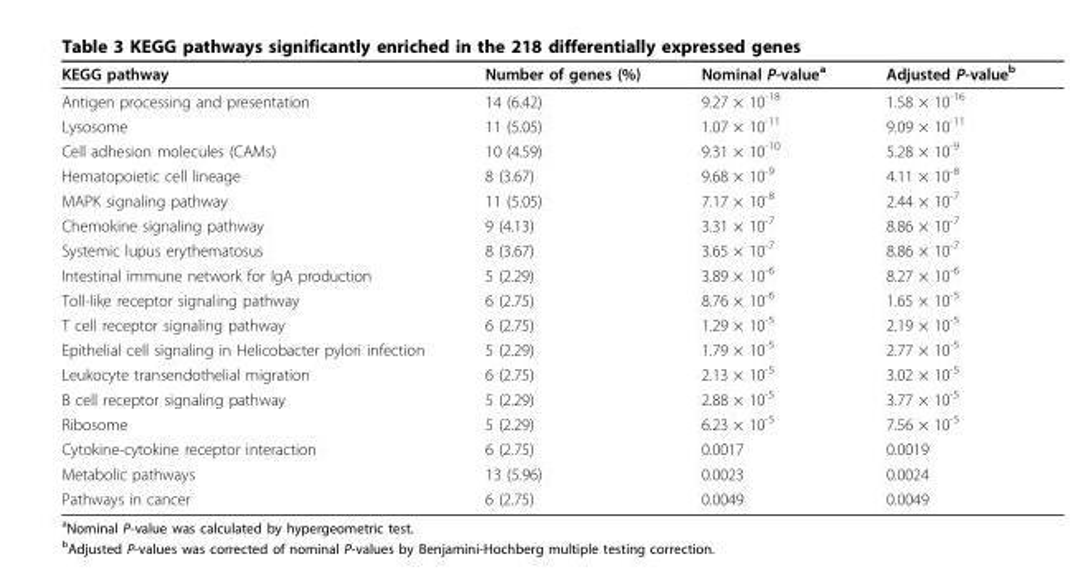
<table><thead><tr><td>KEGG pathway</td><td>Number of genes (%)</td><td>Nominal P-value<sup>a</sup></td><td>Adjusted P-value<sup>b</sup></td></tr></thead><tbody><tr><td>Antigen processing and presentation</td><td>14 (6.42)</td><td>9.27 × 10<sup>-18</sup></td><td>1.58 × 10<sup>-16</sup></td></tr><tr><td>Lysosome</td><td>11 (5.05)</td><td>1.07 × 10<sup>-11</sup></td><td>9.09 × 10<sup>-11</sup></td></tr><tr><td>Cell adhesion molecules (CAMs)</td><td>10 (4.59)</td><td>9.31 × 10<sup>-10</sup></td><td>5.28 × 10<sup>-9</sup></td></tr><tr><td>Hematopoietic cell lineage</td><td>8 (3.67)</td><td>9.68 × 10<sup>-9</sup></td><td>4.11 × 10<sup>-8</sup></td></tr><tr><td>MAPK signaling pathway</td><td>11 (5.05)</td><td>7.17 × 10<sup>-8</sup></td><td>2.44 × 10<sup>-7</sup></td></tr><tr><td>Chemokine signaling pathway</td><td>9 (4.13)</td><td>3.31 × 10<sup>-7</sup></td><td>8.86 × 10<sup>-7</sup></td></tr><tr><td>Systemic lupus erythematosus</td><td>8 (3.67)</td><td>3.65 × 10<sup>-7</sup></td><td>8.86 × 10<sup>-7</sup></td></tr><tr><td>Intestinal immune network for IgA production</td><td>5 (2.29)</td><td>3.89 × 10<sup>-6</sup></td><td>8.27 × 10<sup>-6</sup></td></tr><tr><td>Toll-like receptor signaling pathway</td><td>6 (2.75)</td><td>8.76 × 10<sup>-6</sup></td><td>1.65 × 10<sup>-5</sup></td></tr><tr><td>T cell receptor signaling pathway</td><td>6 (2.75)</td><td>1.29 × 10<sup>-5</sup></td><td>2.19 × 10<sup>-5</sup></td></tr><tr><td>Epithelial cell signaling in Helicobacter pylori infection</td><td>5 (2.29)</td><td>1.79 × 10<sup>-5</sup></td><td>2.77 × 10<sup>-5</sup></td></tr><tr><td>Leukocyte transendothelial migration</td><td>6 (2.75)</td><td>2.13 × 10<sup>-5</sup></td><td>3.02 × 10<sup>-5</sup></td></tr><tr><td>B cell receptor signaling pathway</td><td>5 (2.29)</td><td>2.88 × 10<sup>-5</sup></td><td>3.77 × 10<sup>-5</sup></td></tr><tr><td>Ribosome</td><td>5 (2.29)</td><td>6.23 × 10<sup>-5</sup></td><td>7.56 × 10<sup>-5</sup></td></tr><tr><td>Cytokine-cytokine receptor interaction</td><td>6 (2.75)</td><td>0.0017</td><td>0.0019</td></tr><tr><td>Metabolic pathways</td><td>13 (5.96)</td><td>0.0023</td><td>0.0024</td></tr><tr><td>Pathways in cancer</td><td>6 (2.75)</td><td>0.0049</td><td>0.0049</td></tr></tbody></table>